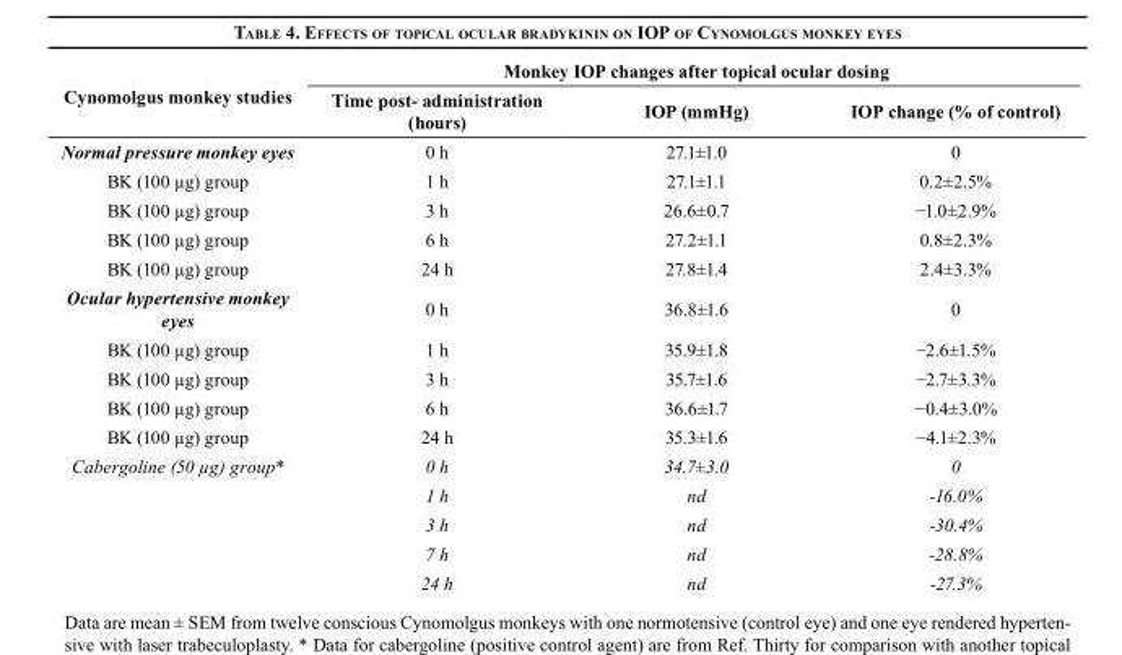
<table><thead><tr><td rowspan="2">Cynomolgus monkey studies</td><td colspan="3">Monkey IOP changes after topical ocular dosing</td></tr><tr><td>Time post- administration (hours)</td><td>IOP (mmHg)</td><td>IOP change (% of control)</td></tr></thead><tbody><tr><td>Normal pressure monkey eyes</td><td>0 h</td><td>27.1±1.0</td><td>0</td></tr><tr><td>BK (100 µg) group</td><td>1 h</td><td>27.1±1.1</td><td>0.2±2.5%</td></tr><tr><td>BK (100 µg) group</td><td>3 h</td><td>26.6±0.7</td><td>−1.0±2.9%</td></tr><tr><td>BK (100 µg) group</td><td>6 h</td><td>27.2±1.1</td><td>0.8±2.3%</td></tr><tr><td>BK (100 µg) group</td><td>24 h</td><td>27.8±1.4</td><td>2.4±3.3%</td></tr><tr><td>Ocular hypertensive monkey eyes</td><td>0 h</td><td>36.8±1.6</td><td>0</td></tr><tr><td>BK (100 µg) group</td><td>1 h</td><td>35.9±1.8</td><td>−2.6±1.5%</td></tr><tr><td>BK (100 µg) group</td><td>3 h</td><td>35.7±1.6</td><td>−2.7±3.3%</td></tr><tr><td>BK (100 µg) group</td><td>6 h</td><td>36.6±1.7</td><td>−0.4±3.0%</td></tr><tr><td>BK (100 µg) group</td><td>24 h</td><td>35.3±1.6</td><td>−4.1±2.3%</td></tr><tr><td rowspan="5">Cabergoline (50 µg) group*</td><td>0 h</td><td>34.7±3.0</td><td>0</td></tr><tr><td>1 h</td><td>nd</td><td>-16.0%</td></tr><tr><td>3 h</td><td>nd</td><td>-30.4%</td></tr><tr><td>7 h</td><td>nd</td><td>-28.8%</td></tr><tr><td>24 h</td><td>nd</td><td>-27.3%</td></tr></tbody></table>